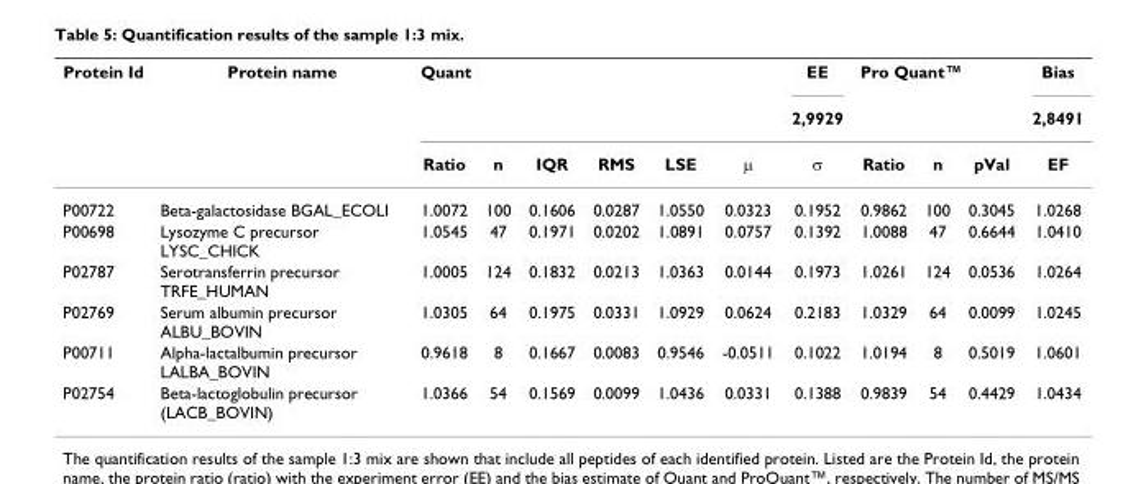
<table><thead><tr><td rowspan="3">Protein Id</td><td rowspan="3">Protein name</td><td colspan="6">Quant</td><td rowspan="3">EE 2,9929 σ</td><td colspan="3">Pro Quant™</td><td rowspan="3">Bias 2,8491 EF</td></tr><tr><td rowspan="2">Ratio</td><td rowspan="2">n</td><td rowspan="2">IQR</td><td rowspan="2">RMS</td><td rowspan="2">LSE</td><td rowspan="2">μ</td><td rowspan="2">Ratio</td><td rowspan="2">n</td><td rowspan="2">pVal</td></tr><tr></tr></thead><tbody><tr><td>P00722</td><td>Beta-galactosidase BGAL_ECOLI</td><td>1.0072</td><td>100</td><td>0.1606</td><td>0.0287</td><td>1.0550</td><td>0.0323</td><td>0.1952</td><td>0.9862</td><td>100</td><td>0.3045</td><td>1.0268</td></tr><tr><td>P00698</td><td>Lysozyme C precursor LYSC_CHICK</td><td>1.0545</td><td>47</td><td>0.1971</td><td>0.0202</td><td>1.0891</td><td>0.0757</td><td>0.1392</td><td>1.0088</td><td>47</td><td>0.6644</td><td>1.0410</td></tr><tr><td>P02787</td><td>Serotransferrin precursor TRFE_HUMAN</td><td>1.0005</td><td>124</td><td>0.1832</td><td>0.0213</td><td>1.0363</td><td>0.0144</td><td>0.1973</td><td>1.0261</td><td>124</td><td>0.0536</td><td>1.0264</td></tr><tr><td>P02769</td><td>Serum albumin precursor ALBU_BOVIN</td><td>1.0305</td><td>64</td><td>0.1975</td><td>0.0331</td><td>1.0929</td><td>0.0624</td><td>0.2183</td><td>1.0329</td><td>64</td><td>0.0099</td><td>1.0245</td></tr><tr><td>P00711</td><td>Alpha-lactalbumin precursor LALBA_BOVIN</td><td>0.9618</td><td>8</td><td>0.1667</td><td>0.0083</td><td>0.9546</td><td>-0.0511</td><td>0.1022</td><td>1.0194</td><td>8</td><td>0.5019</td><td>1.0601</td></tr><tr><td>P02754</td><td>Beta-lactoglobulin precursor (LACB_BOVIN)</td><td>1.0366</td><td>54</td><td>0.1569</td><td>0.0099</td><td>1.0436</td><td>0.0331</td><td>0.1388</td><td>0.9839</td><td>54</td><td>0.4429</td><td>1.0434</td></tr></tbody></table>